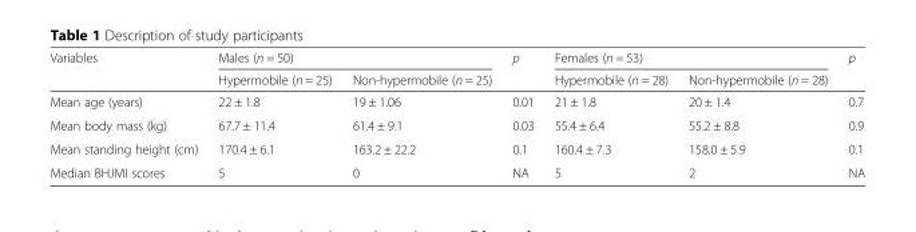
<table><thead><tr><td rowspan="2">Variables</td><td colspan="2">Males (n = 50)</td><td rowspan="2">p</td><td colspan="2">Females (n = 53)</td><td rowspan="2">p</td></tr><tr><td>Hypermobile (n = 25)</td><td>Non-hypermobile (n = 25)</td><td>Hypermobile (n = 28)</td><td>Non-hypermobile (n = 28)</td></tr></thead><tbody><tr><td>Mean age (years)</td><td>22 ± 1.8</td><td>19 ± 1.06</td><td>0.01</td><td>21 ± 1.8</td><td>20 ± 1.4</td><td>0.7</td></tr><tr><td>Mean body mass (kg)</td><td>67.7 ± 11.4</td><td>61.4 ± 9.1</td><td>0.03</td><td>55.4 ± 6.4</td><td>55.2 ± 8.8</td><td>0.9</td></tr><tr><td>Mean standing height (cm)</td><td>170.4 ± 6.1</td><td>163.2 ± 22.2</td><td>0.1</td><td>160.4 ± 7.3</td><td>158.0 ± 5.9</td><td>0.1</td></tr><tr><td>Median BHJMI scores</td><td>5</td><td>0</td><td>NA</td><td>5</td><td>2</td><td>NA</td></tr></tbody></table>